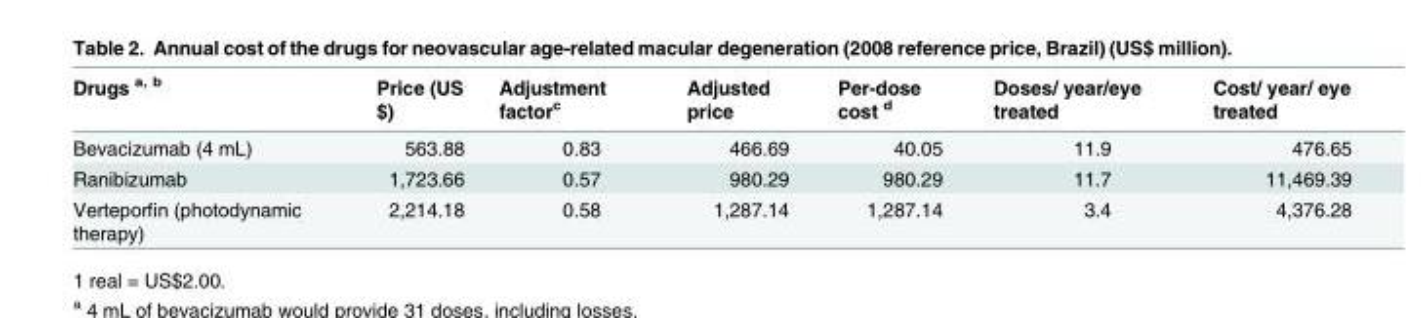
<table><thead><tr><td>Drugs <sup>a, b</sup></td><td>Price (US $)</td><td>Adjustment factor<sup>c</sup></td><td>Adjusted price</td><td>Per-dose cost <sup>d</sup></td><td>Doses/ year/eye treated</td><td>Cost/ year/ eye treated</td></tr></thead><tbody><tr><td>Bevacizumab (4 mL)</td><td>563.88</td><td>0.83</td><td>466.69</td><td>40.05</td><td>11.9</td><td>476.65</td></tr><tr><td>Ranibizumab</td><td>1,723.66</td><td>0.57</td><td>980.29</td><td>980.29</td><td>11.7</td><td>11,469.39</td></tr><tr><td>Verteporfin (photodynamic therapy)</td><td>2,214.18</td><td>0.58</td><td>1,287.14</td><td>1,287.14</td><td>3.4</td><td>4,376.28</td></tr></tbody></table>